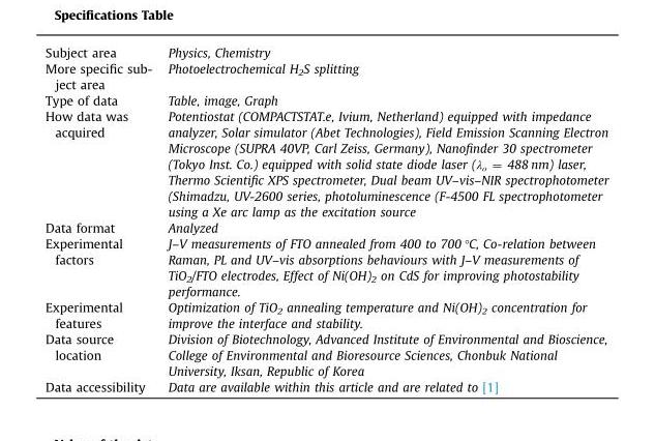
<table><tbody><tr><td>Subject area</td><td>Physics, Chemistry</td></tr><tr><td>More specific sub- ject area</td><td>Photoelectrochemical H<sub>2</sub>S splitting</td></tr><tr><td>Type of data</td><td>Table, image, Graph</td></tr><tr><td>How data was acquired</td><td>Potentiostat (COMPACTSTAT.e, Ivium, Netherland) equipped with impedance analyzer, Solar simulator (Abet Technologies), Field Emission Scanning Electron Microscope (SUPRA 40VP, Carl Zeiss, Germany), Nanofinder 30 spectrometer (Tokyo Inst. Co.) equipped with solid state diode laser (λ<sub>ο</sub> = 488 nm) laser, Thermo Scientific XPS spectrometer, Dual beam UV–vis–NIR spectrophotometer (Shimadzu, UV-2600 series, photoluminescence (F-4500 FL spectrophotometer using a Xe arc lamp as the excitation source</td></tr><tr><td>Data format</td><td>Analyzed</td></tr><tr><td>Experimental factors</td><td>J–V measurements of FTO annealed from 400 to 700 °C, Co-relation between Raman, PL and UV–vis absorptions behaviours with J–V measurements of TiO<sub>2</sub>/FTO electrodes, Effect of Ni(OH)<sub>2</sub> on CdS for improving photostability performance.</td></tr><tr><td>Experimental features</td><td>Optimization of TiO<sub>2</sub> annealing temperature and Ni(OH)<sub>2</sub> concentration for improve the interface and stability.</td></tr><tr><td>Data source location</td><td>Division of Biotechnology, Advanced Institute of Environmental and Bioscience, College of Environmental and Bioresource Sciences, Chonbuk National University, Iksan, Republic of Korea</td></tr><tr><td>Data accessibility</td><td>Data are available within this article and are related to [1]</td></tr></tbody></table>